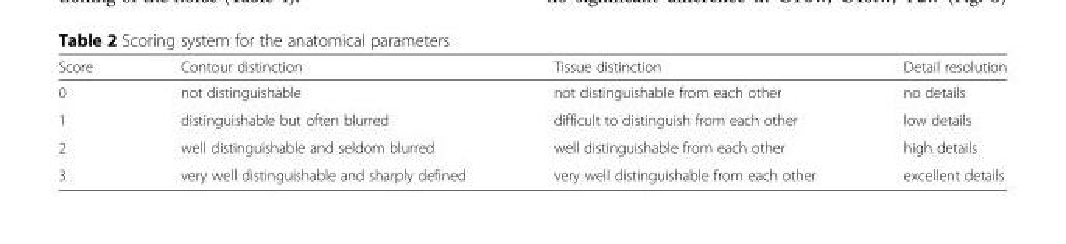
<table><thead><tr><td>Score</td><td>Contour distinction</td><td>Tissue distinction</td><td>Detail resolution</td></tr></thead><tbody><tr><td>0</td><td>not distinguishable</td><td>not distinguishable from each other</td><td>no details</td></tr><tr><td>1</td><td>distinguishable but often blurred</td><td>difficult to distinguish from each other</td><td>low details</td></tr><tr><td>2</td><td>well distinguishable and seldom blurred</td><td>well distinguishable from each other</td><td>high details</td></tr><tr><td>3</td><td>very well distinguishable and sharply defined</td><td>very well distinguishable from each other</td><td>excellent details</td></tr></tbody></table>